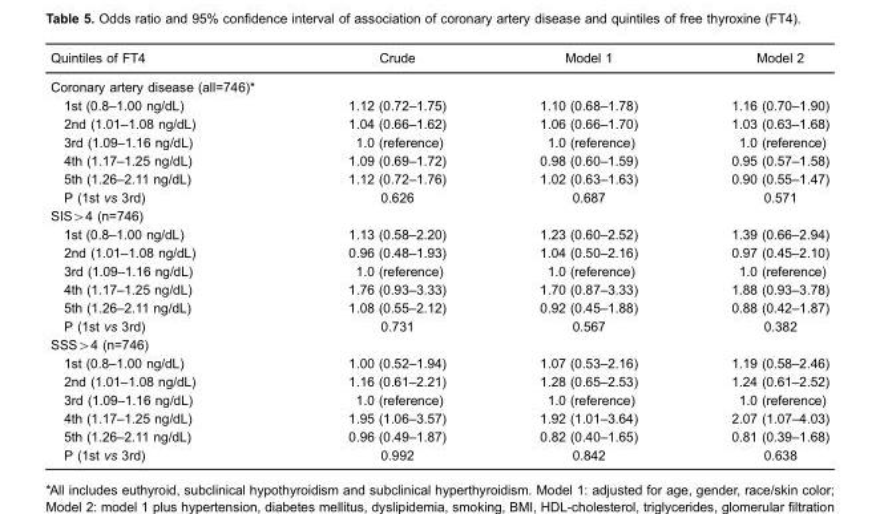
<table><thead><tr><td>Quintiles of FT4</td><td>Crude</td><td>Model 1</td><td>Model 2</td></tr></thead><tbody><tr><td colspan="4">Coronary artery disease (all=746)*</td></tr><tr><td>1st (0.8–1.00 ng/dL)</td><td>1.12 (0.72–1.75)</td><td>1.10 (0.68–1.78)</td><td>1.16 (0.70–1.90)</td></tr><tr><td>2nd (1.01–1.08 ng/dL)</td><td>1.04 (0.66–1.62)</td><td>1.06 (0.66–1.70)</td><td>1.03 (0.63–1.68)</td></tr><tr><td>3rd (1.09–1.16 ng/dL)</td><td>1.0 (reference)</td><td>1.0 (reference)</td><td>1.0 (reference)</td></tr><tr><td>4th (1.17–1.25 ng/dL)</td><td>1.09 (0.69–1.72)</td><td>0.98 (0.60–1.59)</td><td>0.95 (0.57–1.58)</td></tr><tr><td>5th (1.26–2.11 ng/dL)</td><td>1.12 (0.72–1.76)</td><td>1.02 (0.63–1.63)</td><td>0.90 (0.55–1.47)</td></tr><tr><td>P (1st vs 3rd)</td><td>0.626</td><td>0.687</td><td>0.571</td></tr><tr><td colspan="4">SIS&gt;4 (n=746)</td></tr><tr><td>1st (0.8–1.00 ng/dL)</td><td>1.13 (0.58–2.20)</td><td>1.23 (0.60–2.52)</td><td>1.39 (0.66–2.94)</td></tr><tr><td>2nd (1.01–1.08 ng/dL)</td><td>0.96 (0.48–1.93)</td><td>1.04 (0.50–2.16)</td><td>0.97 (0.45–2.10)</td></tr><tr><td>3rd (1.09–1.16 ng/dL)</td><td>1.0 (reference)</td><td>1.0 (reference)</td><td>1.0 (reference)</td></tr><tr><td>4th (1.17–1.25 ng/dL)</td><td>1.76 (0.93–3.33)</td><td>1.70 (0.87–3.33)</td><td>1.88 (0.93–3.78)</td></tr><tr><td>5th (1.26–2.11 ng/dL)</td><td>1.08 (0.55–2.12)</td><td>0.92 (0.45–1.88)</td><td>0.88 (0.42–1.87)</td></tr><tr><td>P (1st vs 3rd)</td><td>0.731</td><td>0.567</td><td>0.382</td></tr><tr><td colspan="4">SSS&gt;4 (n=746)</td></tr><tr><td>1st (0.8–1.00 ng/dL)</td><td>1.00 (0.52–1.94)</td><td>1.07 (0.53–2.16)</td><td>1.19 (0.58–2.46)</td></tr><tr><td>2nd (1.01–1.08 ng/dL)</td><td>1.16 (0.61–2.21)</td><td>1.28 (0.65–2.53)</td><td>1.24 (0.61–2.52)</td></tr><tr><td>3rd (1.09–1.16 ng/dL)</td><td>1.0 (reference)</td><td>1.0 (reference)</td><td>1.0 (reference)</td></tr><tr><td>4th (1.17–1.25 ng/dL)</td><td>1.95 (1.06–3.57)</td><td>1.92 (1.01–3.64)</td><td>2.07 (1.07–4.03)</td></tr><tr><td>5th (1.26–2.11 ng/dL)</td><td>0.96 (0.49–1.87)</td><td>0.82 (0.40–1.65)</td><td>0.81 (0.39–1.68)</td></tr><tr><td>P (1st vs 3rd)</td><td>0.992</td><td>0.842</td><td>0.638</td></tr></tbody></table>